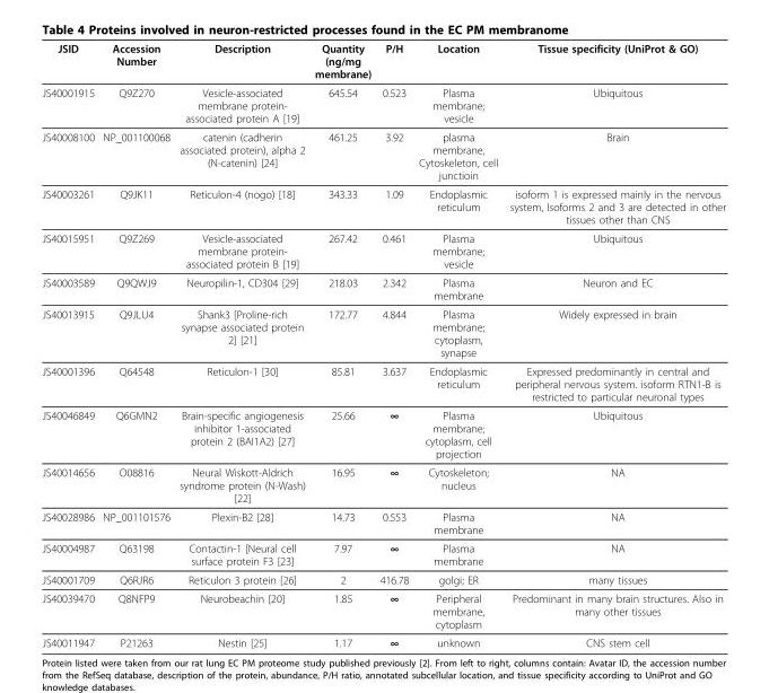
<table><thead><tr><td>JSID</td><td>Accession Number</td><td>Description</td><td>Quantity (ng/mg membrane)</td><td>P/H</td><td>Location</td><td>Tissue specificity (UniProt &amp; GO)</td></tr></thead><tbody><tr><td>JS40001915</td><td>Q9Z270</td><td>Vesicle-associated membrane protein- associated protein A [19]</td><td>645.54</td><td>0.523</td><td>Plasma membrane; vesicle</td><td>Ubiquitous</td></tr><tr><td>JS40008100</td><td>NP_001100068</td><td>catenin (cadherin associated protein), alpha 2 (N-catenin) [24]</td><td>461.25</td><td>3.92</td><td>plasma membrane, Cytoskeleton, cell junctioin</td><td>Brain</td></tr><tr><td>JS40003261</td><td>Q9JK11</td><td>Reticulon-4 (nogo) [18]</td><td>343.33</td><td>1.09</td><td>Endoplasmic reticulum</td><td>isoform 1 is expressed mainly in the nervous system, Isoforms 2 and 3 are detected in other tissues other than CNS</td></tr><tr><td>JS40015951</td><td>Q9Z269</td><td>Vesicle-associated membrane protein- associated protein B [19]</td><td>267.42</td><td>0.461</td><td>Plasma membrane; vesicle</td><td>Ubiquitous</td></tr><tr><td>JS40003589</td><td>Q9QWJ9</td><td>Neuropilin-1, CD304 [29]</td><td>218.03</td><td>2.342</td><td>Plasma membrane</td><td>Neuron and EC</td></tr><tr><td>JS40013915</td><td>Q9JLU4</td><td>Shank3 [Proline-rich synapse associated protein 2] [21]</td><td>172.77</td><td>4.844</td><td>Plasma membrane; cytoplasm, synapse</td><td>Widely expressed in brain</td></tr><tr><td>JS40001396</td><td>Q64548</td><td>Reticulon-1 [30]</td><td>85.81</td><td>3.637</td><td>Endoplasmic reticulum</td><td>Expressed predominantly in central and peripheral nervous system. isoform RTN1-B is restricted to particular neuronal types</td></tr><tr><td>JS40046849</td><td>Q6GMN2</td><td>Brain-specific angiogenesis inhibitor 1-associated protein 2 (BAI1A2) [27]</td><td>25.66</td><td>∞</td><td>Plasma membrane; cytoplasm, cell projection</td><td>Ubiquitous</td></tr><tr><td>JS40014656</td><td>O08816</td><td>Neural Wiskott-Aldrich syndrome protein (N-Wash) [22]</td><td>16.95</td><td>∞</td><td>Cytoskeleton; nucleus</td><td>NA</td></tr><tr><td>JS40028986</td><td>NP_001101576</td><td>Plexin-B2 [28]</td><td>14.73</td><td>0.553</td><td>Plasma membrane</td><td>NA</td></tr><tr><td>JS40004987</td><td>Q63198</td><td>Contactin-1 [Neural cell surface protein F3 [23]</td><td>7.97</td><td>∞</td><td>Plasma membrane</td><td>NA</td></tr><tr><td>JS40001709</td><td>Q6RJR6</td><td>Reticulon 3 protein [26]</td><td>2</td><td>416.78</td><td>golgi; ER</td><td>many tissues</td></tr><tr><td>JS40039470</td><td>Q8NFP9</td><td>Neurobeachin [20]</td><td>1.85</td><td>∞</td><td>Peripheral membrane, cytoplasm</td><td>Predominant in many brain structures. Also in many other tissues</td></tr><tr><td>JS40011947</td><td>P21263</td><td>Nestin [25]</td><td>1.17</td><td>∞</td><td>unknown</td><td>CNS stem cell</td></tr></tbody></table>